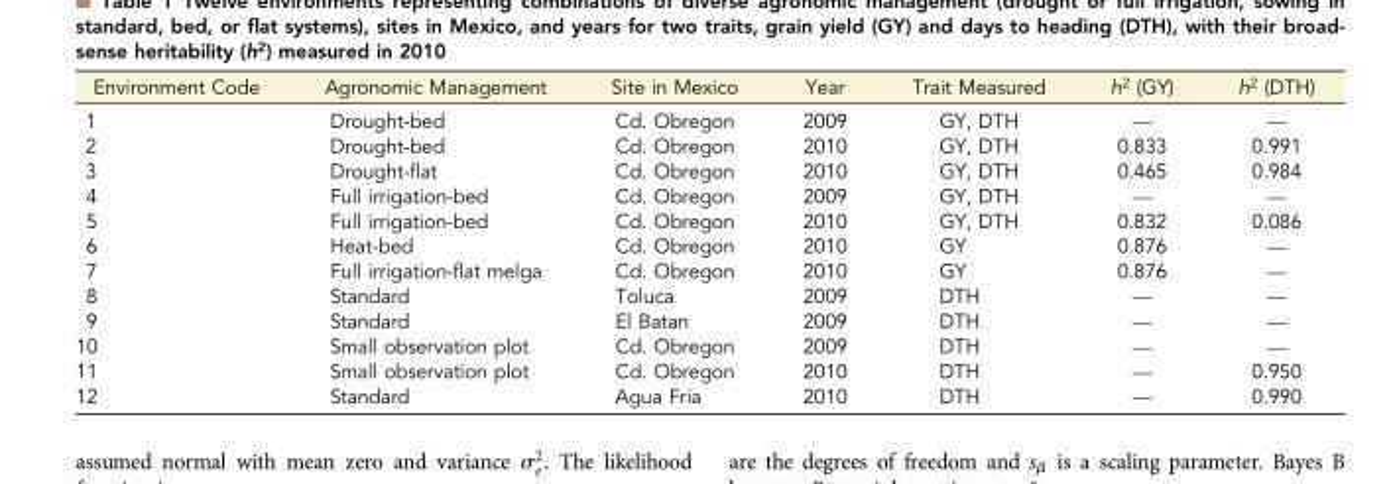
<table><thead><tr><td>Environment Code</td><td>Agronomic Management</td><td>Site in Mexico</td><td>Year</td><td>Trait Measured</td><td>h<sup>2</sup> (GY)</td><td>h<sup>2</sup> (DTH)</td></tr></thead><tbody><tr><td>1</td><td>Drought-bed</td><td>Cd. Obregon</td><td>2009</td><td>GY, DTH</td><td>—</td><td>—</td></tr><tr><td>2</td><td>Drought-bed</td><td>Cd. Obregon</td><td>2010</td><td>GY, DTH</td><td>0.833</td><td>0.991</td></tr><tr><td>3</td><td>Drought-flat</td><td>Cd. Obregon</td><td>2010</td><td>GY, DTH</td><td>0.465</td><td>0.984</td></tr><tr><td>4</td><td>Full irrigation-bed</td><td>Cd. Obregon</td><td>2009</td><td>GY, DTH</td><td>—</td><td>—</td></tr><tr><td>5</td><td>Full irrigation-bed</td><td>Cd. Obregon</td><td>2010</td><td>GY, DTH</td><td>0.832</td><td>0.086</td></tr><tr><td>6</td><td>Heat-bed</td><td>Cd. Obregon</td><td>2010</td><td>GY</td><td>0.876</td><td>—</td></tr><tr><td>7</td><td>Full irrigation-flat melga</td><td>Cd. Obregon</td><td>2010</td><td>GY</td><td>0.876</td><td>—</td></tr><tr><td>8</td><td>Standard</td><td>Toluca</td><td>2009</td><td>DTH</td><td>—</td><td>—</td></tr><tr><td>9</td><td>Standard</td><td>El Batan</td><td>2009</td><td>DTH</td><td>—</td><td>—</td></tr><tr><td>10</td><td>Small observation plot</td><td>Cd. Obregon</td><td>2009</td><td>DTH</td><td>—</td><td>—</td></tr><tr><td>11</td><td>Small observation plot</td><td>Cd. Obregon</td><td>2010</td><td>DTH</td><td>—</td><td>0.950</td></tr><tr><td>12</td><td>Standard</td><td>Agua Fria</td><td>2010</td><td>DTH</td><td>—</td><td>0.990</td></tr></tbody></table>